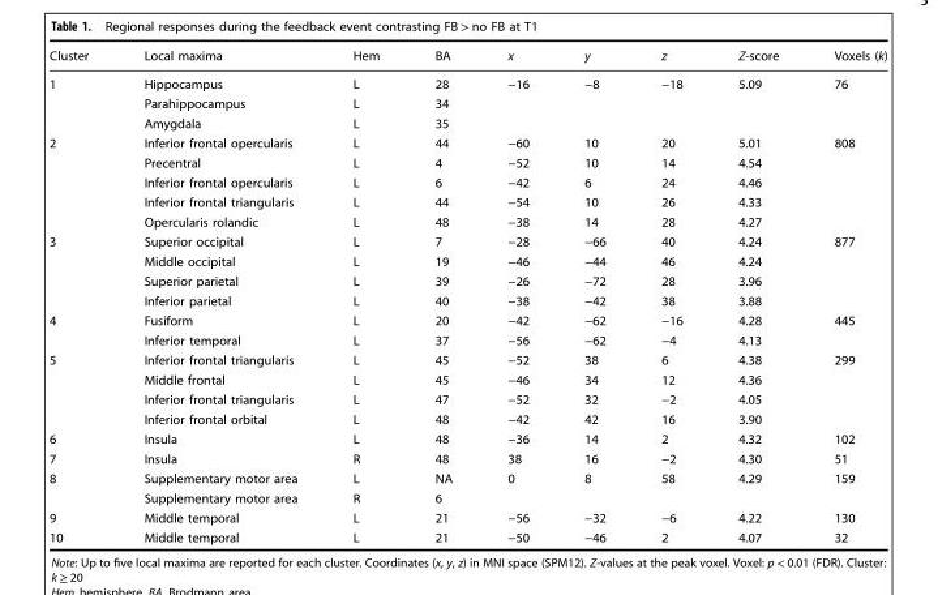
<table><thead><tr><td>Cluster</td><td>Local maxima</td><td>Hem</td><td>BA</td><td>x</td><td>y</td><td>z</td><td>Z-score</td><td>Voxels (k)</td></tr></thead><tbody><tr><td rowspan="3">1</td><td>Hippocampus</td><td>L</td><td>28</td><td>−16</td><td>−8</td><td>−18</td><td>5.09</td><td>76</td></tr><tr><td>Parahippocampus</td><td>L</td><td>34</td><td></td><td></td><td></td><td></td><td></td></tr><tr><td>Amygdala</td><td>L</td><td>35</td><td></td><td></td><td></td><td></td><td></td></tr><tr><td rowspan="5">2</td><td>Inferior frontal opercularis</td><td>L</td><td>44</td><td>−60</td><td>10</td><td>20</td><td>5.01</td><td>808</td></tr><tr><td>Precentral</td><td>L</td><td>4</td><td>−52</td><td>10</td><td>14</td><td>4.54</td><td></td></tr><tr><td>Inferior frontal opercularis</td><td>L</td><td>6</td><td>−42</td><td>6</td><td>24</td><td>4.46</td><td></td></tr><tr><td>Inferior frontal triangularis</td><td>L</td><td>44</td><td>−54</td><td>10</td><td>26</td><td>4.33</td><td></td></tr><tr><td>Opercularis rolandic</td><td>L</td><td>48</td><td>−38</td><td>14</td><td>28</td><td>4.27</td><td></td></tr><tr><td rowspan="4">3</td><td>Superior occipital</td><td>L</td><td>7</td><td>−28</td><td>−66</td><td>40</td><td>4.24</td><td>877</td></tr><tr><td>Middle occipital</td><td>L</td><td>19</td><td>−46</td><td>−44</td><td>46</td><td>4.24</td><td></td></tr><tr><td>Superior parietal</td><td>L</td><td>39</td><td>−26</td><td>−72</td><td>28</td><td>3.96</td><td></td></tr><tr><td>Inferior parietal</td><td>L</td><td>40</td><td>−38</td><td>−42</td><td>38</td><td>3.88</td><td></td></tr><tr><td rowspan="2">4</td><td>Fusiform</td><td>L</td><td>20</td><td>−42</td><td>−62</td><td>−16</td><td>4.28</td><td>445</td></tr><tr><td>Inferior temporal</td><td>L</td><td>37</td><td>−56</td><td>−62</td><td>−4</td><td>4.13</td><td></td></tr><tr><td rowspan="4">5</td><td>Inferior frontal triangularis</td><td>L</td><td>45</td><td>−52</td><td>38</td><td>6</td><td>4.38</td><td>299</td></tr><tr><td>Middle frontal</td><td>L</td><td>45</td><td>−46</td><td>34</td><td>12</td><td>4.36</td><td></td></tr><tr><td>Inferior frontal triangularis</td><td>L</td><td>47</td><td>−52</td><td>32</td><td>−2</td><td>4.05</td><td></td></tr><tr><td>Inferior frontal orbital</td><td>L</td><td>48</td><td>−42</td><td>42</td><td>16</td><td>3.90</td><td></td></tr><tr><td>6</td><td>Insula</td><td>L</td><td>48</td><td>−36</td><td>14</td><td>2</td><td>4.32</td><td>102</td></tr><tr><td>7</td><td>Insula</td><td>R</td><td>48</td><td>38</td><td>16</td><td>−2</td><td>4.30</td><td>51</td></tr><tr><td rowspan="2">8</td><td>Supplementary motor area</td><td>L</td><td>NA</td><td>0</td><td>8</td><td>58</td><td>4.29</td><td>159</td></tr><tr><td>Supplementary motor area</td><td>R</td><td>6</td><td></td><td></td><td></td><td></td><td></td></tr><tr><td>9</td><td>Middle temporal</td><td>L</td><td>21</td><td>−56</td><td>−32</td><td>−6</td><td>4.22</td><td>130</td></tr><tr><td>10</td><td>Middle temporal</td><td>L</td><td>21</td><td>−50</td><td>−46</td><td>2</td><td>4.07</td><td>32</td></tr></tbody></table>